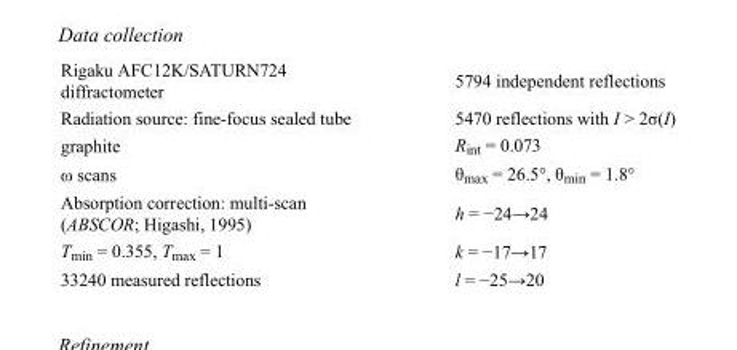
<table><tbody><tr><td>Rigaku AFC12K/SATURN724 diffractometer</td><td>5794 independent reflections</td></tr><tr><td>Radiation source: fine-focus sealed tube</td><td>5470 reflections with I &gt; 2σ(I)</td></tr><tr><td>graphite</td><td>R<sub>int</sub> = 0.073</td></tr><tr><td>ω scans</td><td>θ<sub>max</sub> = 26.5°, θ<sub>min</sub> = 1.8°</td></tr><tr><td>Absorption correction: multi-scan (ABSCOR; Higashi, 1995)</td><td>h = −24→24</td></tr><tr><td>T<sub>min</sub> = 0.355, T<sub>max</sub> = 1</td><td>k = −17→17</td></tr><tr><td>33240 measured reflections</td><td>l = −25→20</td></tr></tbody></table>